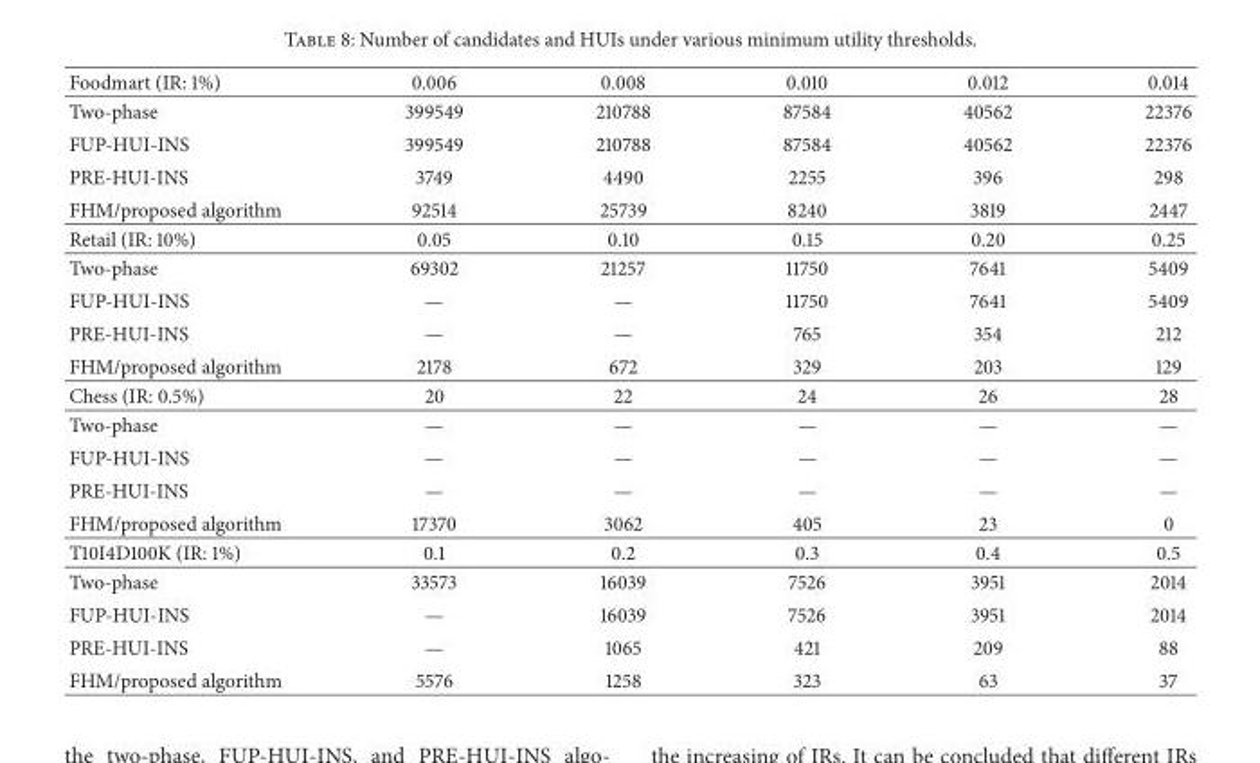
<table><thead><tr><td>Foodmart (IR: 1%)</td><td>0.006</td><td>0.008</td><td>0.010</td><td>0.012</td><td>0.014</td></tr></thead><tbody><tr><td>Two-phase</td><td>399549</td><td>210788</td><td>87584</td><td>40562</td><td>22376</td></tr><tr><td>FUP-HUI-INS</td><td>399549</td><td>210788</td><td>87584</td><td>40562</td><td>22376</td></tr><tr><td>PRE-HUI-INS</td><td>3749</td><td>4490</td><td>2255</td><td>396</td><td>298</td></tr><tr><td>FHM/proposed algorithm</td><td>92514</td><td>25739</td><td>8240</td><td>3819</td><td>2447</td></tr><tr><td>Retail (IR: 10%)</td><td>0.05</td><td>0.10</td><td>0.15</td><td>0.20</td><td>0.25</td></tr><tr><td>Two-phase</td><td>69302</td><td>21257</td><td>11750</td><td>7641</td><td>5409</td></tr><tr><td>FUP-HUI-INS</td><td>—</td><td>—</td><td>11750</td><td>7641</td><td>5409</td></tr><tr><td>PRE-HUI-INS</td><td>—</td><td>—</td><td>765</td><td>354</td><td>212</td></tr><tr><td>FHM/proposed algorithm</td><td>2178</td><td>672</td><td>329</td><td>203</td><td>129</td></tr><tr><td>Chess (IR: 0.5%)</td><td>20</td><td>22</td><td>24</td><td>26</td><td>28</td></tr><tr><td>Two-phase</td><td>—</td><td>—</td><td>—</td><td>—</td><td>—</td></tr><tr><td>FUP-HUI-INS</td><td>—</td><td>—</td><td>—</td><td>—</td><td>—</td></tr><tr><td>PRE-HUI-INS</td><td>—</td><td>—</td><td>—</td><td>—</td><td>—</td></tr><tr><td>FHM/proposed algorithm</td><td>17370</td><td>3062</td><td>405</td><td>23</td><td>0</td></tr><tr><td>T10I4D100K (IR: 1%)</td><td>0.1</td><td>0.2</td><td>0.3</td><td>0.4</td><td>0.5</td></tr><tr><td>Two-phase</td><td>33573</td><td>16039</td><td>7526</td><td>3951</td><td>2014</td></tr><tr><td>FUP-HUI-INS</td><td>—</td><td>16039</td><td>7526</td><td>3951</td><td>2014</td></tr><tr><td>PRE-HUI-INS</td><td>—</td><td>1065</td><td>421</td><td>209</td><td>88</td></tr><tr><td>FHM/proposed algorithm</td><td>5576</td><td>1258</td><td>323</td><td>63</td><td>37</td></tr></tbody></table>